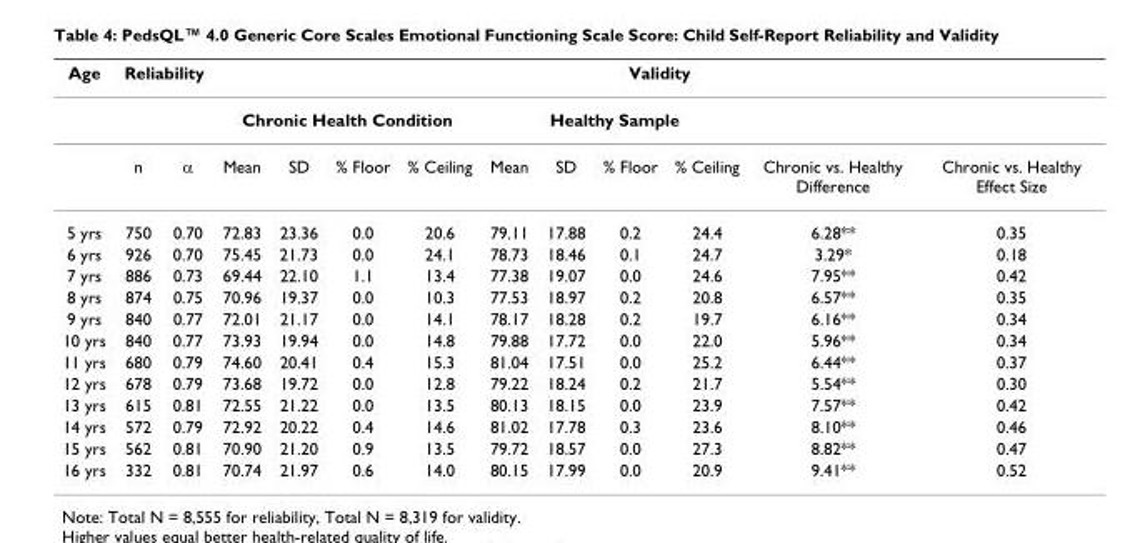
<table><thead><tr><td rowspan="3">Age</td><td colspan="2">Reliability</td><td colspan="10">Validity</td></tr><tr><td rowspan="2">n</td><td rowspan="2">α</td><td colspan="4">Chronic Health Condition</td><td colspan="4">Healthy Sample</td><td rowspan="2">Chronic vs. Healthy Difference</td><td rowspan="2">Chronic vs. Healthy Effect Size</td></tr><tr><td>Mean</td><td>SD</td><td>% Floor</td><td>% Ceiling</td><td>Mean</td><td>SD</td><td>% Floor</td><td>% Ceiling</td></tr></thead><tbody><tr><td>5 yrs</td><td>750</td><td>0.70</td><td>72.83</td><td>23.36</td><td>0.0</td><td>20.6</td><td>79.11</td><td>17.88</td><td>0.2</td><td>24.4</td><td>6.28**</td><td>0.35</td></tr><tr><td>6 yrs</td><td>926</td><td>0.70</td><td>75.45</td><td>21.73</td><td>0.0</td><td>24.1</td><td>78.73</td><td>18.46</td><td>0.1</td><td>24.7</td><td>3.29*</td><td>0.18</td></tr><tr><td>7 yrs</td><td>886</td><td>0.73</td><td>69.44</td><td>22.10</td><td>1.1</td><td>13.4</td><td>77.38</td><td>19.07</td><td>0.0</td><td>24.6</td><td>7.95**</td><td>0.42</td></tr><tr><td>8 yrs</td><td>874</td><td>0.75</td><td>70.96</td><td>19.37</td><td>0.0</td><td>10.3</td><td>77.53</td><td>18.97</td><td>0.2</td><td>20.8</td><td>6.57**</td><td>0.35</td></tr><tr><td>9 yrs</td><td>840</td><td>0.77</td><td>72.01</td><td>21.17</td><td>0.0</td><td>14.1</td><td>78.17</td><td>18.28</td><td>0.2</td><td>19.7</td><td>6.16**</td><td>0.34</td></tr><tr><td>10 yrs</td><td>840</td><td>0.77</td><td>73.93</td><td>19.94</td><td>0.0</td><td>14.8</td><td>79.88</td><td>17.72</td><td>0.0</td><td>22.0</td><td>5.96**</td><td>0.34</td></tr><tr><td>11 yrs</td><td>680</td><td>0.79</td><td>74.60</td><td>20.41</td><td>0.4</td><td>15.3</td><td>81.04</td><td>17.51</td><td>0.0</td><td>25.2</td><td>6.44**</td><td>0.37</td></tr><tr><td>12 yrs</td><td>678</td><td>0.79</td><td>73.68</td><td>19.72</td><td>0.0</td><td>12.8</td><td>79.22</td><td>18.24</td><td>0.2</td><td>21.7</td><td>5.54**</td><td>0.30</td></tr><tr><td>13 yrs</td><td>615</td><td>0.81</td><td>72.55</td><td>21.22</td><td>0.0</td><td>13.5</td><td>80.13</td><td>18.15</td><td>0.0</td><td>23.9</td><td>7.57**</td><td>0.42</td></tr><tr><td>14 yrs</td><td>572</td><td>0.79</td><td>72.92</td><td>20.22</td><td>0.4</td><td>14.6</td><td>81.02</td><td>17.78</td><td>0.3</td><td>23.6</td><td>8.10**</td><td>0.46</td></tr><tr><td>15 yrs</td><td>562</td><td>0.81</td><td>70.90</td><td>21.20</td><td>0.9</td><td>13.5</td><td>79.72</td><td>18.57</td><td>0.0</td><td>27.3</td><td>8.82**</td><td>0.47</td></tr><tr><td>16 yrs</td><td>332</td><td>0.81</td><td>70.74</td><td>21.97</td><td>0.6</td><td>14.0</td><td>80.15</td><td>17.99</td><td>0.0</td><td>20.9</td><td>9.41**</td><td>0.52</td></tr></tbody></table>